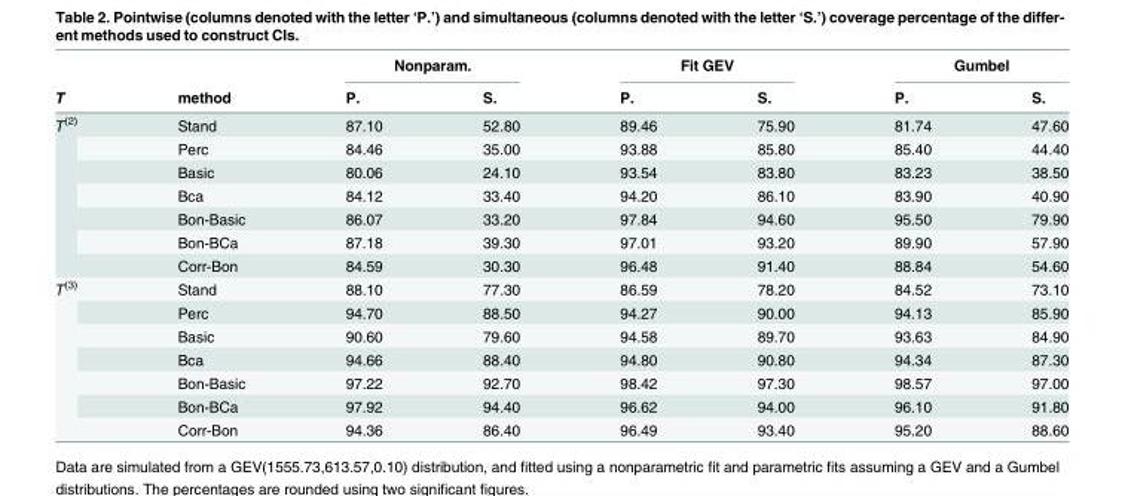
<table><thead><tr><td rowspan="2">T</td><td rowspan="2">method</td><td colspan="2">Nonparam.</td><td colspan="2">Fit GEV</td><td colspan="2">Gumbel</td></tr><tr><td>P.</td><td>S.</td><td>P.</td><td>S.</td><td>P.</td><td>S.</td></tr></thead><tbody><tr><td rowspan="7">T<sup>(2)</sup></td><td>Stand</td><td>87.10</td><td>52.80</td><td>89.46</td><td>75.90</td><td>81.74</td><td>47.60</td></tr><tr><td>Perc</td><td>84.46</td><td>35.00</td><td>93.88</td><td>85.80</td><td>85.40</td><td>44.40</td></tr><tr><td>Basic</td><td>80.06</td><td>24.10</td><td>93.54</td><td>83.80</td><td>83.23</td><td>38.50</td></tr><tr><td>Bca</td><td>84.12</td><td>33.40</td><td>94.20</td><td>86.10</td><td>83.90</td><td>40.90</td></tr><tr><td>Bon-Basic</td><td>86.07</td><td>33.20</td><td>97.84</td><td>94.60</td><td>95.50</td><td>79.90</td></tr><tr><td>Bon-BCa</td><td>87.18</td><td>39.30</td><td>97.01</td><td>93.20</td><td>89.90</td><td>57.90</td></tr><tr><td>Corr-Bon</td><td>84.59</td><td>30.30</td><td>96.48</td><td>91.40</td><td>88.84</td><td>54.60</td></tr><tr><td rowspan="7">T<sup>(3)</sup></td><td>Stand</td><td>88.10</td><td>77.30</td><td>86.59</td><td>78.20</td><td>84.52</td><td>73.10</td></tr><tr><td>Perc</td><td>94.70</td><td>88.50</td><td>94.27</td><td>90.00</td><td>94.13</td><td>85.90</td></tr><tr><td>Basic</td><td>90.60</td><td>79.60</td><td>94.58</td><td>89.70</td><td>93.63</td><td>84.90</td></tr><tr><td>Bca</td><td>94.66</td><td>88.40</td><td>94.80</td><td>90.80</td><td>94.34</td><td>87.30</td></tr><tr><td>Bon-Basic</td><td>97.22</td><td>92.70</td><td>98.42</td><td>97.30</td><td>98.57</td><td>97.00</td></tr><tr><td>Bon-BCa</td><td>97.92</td><td>94.40</td><td>96.62</td><td>94.00</td><td>96.10</td><td>91.80</td></tr><tr><td>Corr-Bon</td><td>94.36</td><td>86.40</td><td>96.49</td><td>93.40</td><td>95.20</td><td>88.60</td></tr></tbody></table>